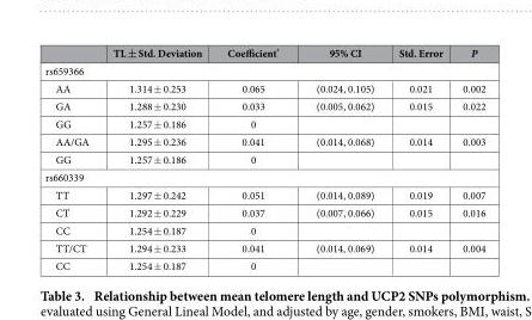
<table><thead><tr><td></td><td>TL ± Std. Deviation</td><td>Coefficient*</td><td>95% CI</td><td>Std. Error</td><td>P</td></tr></thead><tbody><tr><td colspan="6">rs659366</td></tr><tr><td>AA</td><td>1.314 ± 0.253</td><td>0.065</td><td>(0.024, 0.105)</td><td>0.021</td><td>0.002</td></tr><tr><td>GA</td><td>1.288 ± 0.230</td><td>0.033</td><td>(0.005, 0.062)</td><td>0.015</td><td>0.022</td></tr><tr><td>GG</td><td>1.257 ± 0.186</td><td>0</td><td></td><td></td><td></td></tr><tr><td>AA/GA</td><td>1.295 ± 0.236</td><td>0.041</td><td>(0.014, 0.068)</td><td>0.014</td><td>0.003</td></tr><tr><td>GG</td><td>1.257 ± 0.186</td><td>0</td><td></td><td></td><td></td></tr><tr><td colspan="6">rs660339</td></tr><tr><td>TT</td><td>1.297 ± 0.242</td><td>0.051</td><td>(0.014, 0.089)</td><td>0.019</td><td>0.007</td></tr><tr><td>CT</td><td>1.292 ± 0.229</td><td>0.037</td><td>(0.007, 0.066)</td><td>0.015</td><td>0.016</td></tr><tr><td>CC</td><td>1.254 ± 0.187</td><td>0</td><td></td><td></td><td></td></tr><tr><td>TT/CT</td><td>1.294 ± 0.233</td><td>0.041</td><td>(0.014, 0.069)</td><td>0.014</td><td>0.004</td></tr><tr><td>CC</td><td>1.254 ± 0.187</td><td>0</td><td></td><td></td><td></td></tr></tbody></table>